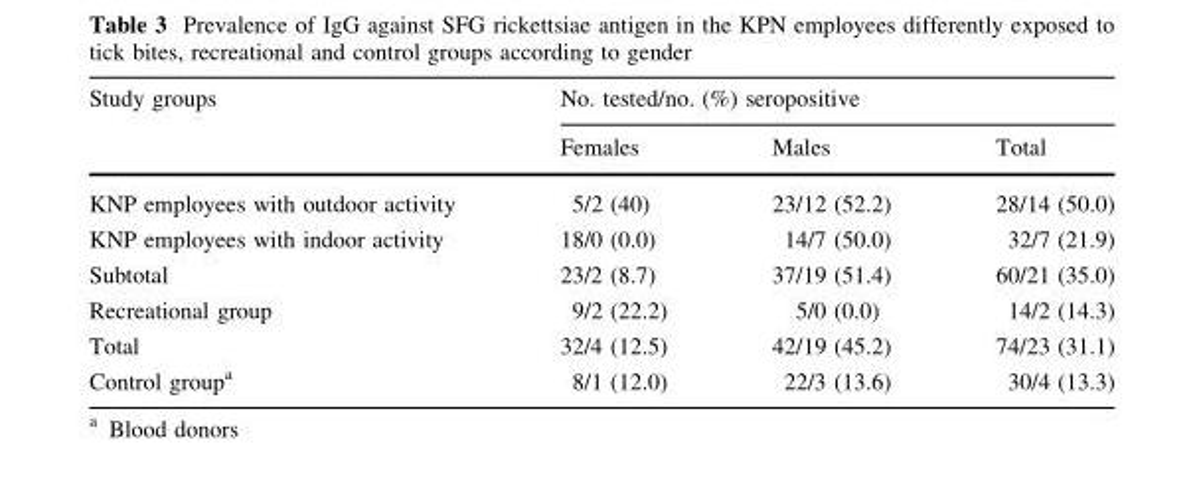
<table><thead><tr><td rowspan="2">Study groups</td><td colspan="3">No. tested/no. (%) seropositive</td></tr><tr><td>Females</td><td>Males</td><td>Total</td></tr></thead><tbody><tr><td>KNP employees with outdoor activity</td><td>5/2 (40)</td><td>23/12 (52.2)</td><td>28/14 (50.0)</td></tr><tr><td>KNP employees with indoor activity</td><td>18/0 (0.0)</td><td>14/7 (50.0)</td><td>32/7 (21.9)</td></tr><tr><td>Subtotal</td><td>23/2 (8.7)</td><td>37/19 (51.4)</td><td>60/21 (35.0)</td></tr><tr><td>Recreational group</td><td>9/2 (22.2)</td><td>5/0 (0.0)</td><td>14/2 (14.3)</td></tr><tr><td>Total</td><td>32/4 (12.5)</td><td>42/19 (45.2)</td><td>74/23 (31.1)</td></tr><tr><td>Control group<sup>a</sup></td><td>8/1 (12.0)</td><td>22/3 (13.6)</td><td>30/4 (13.3)</td></tr></tbody></table>